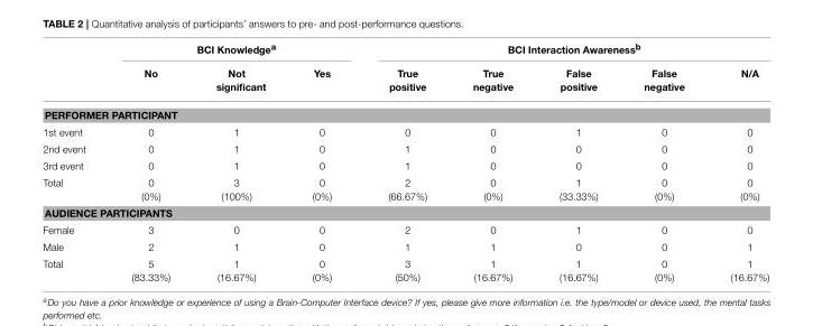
<table><thead><tr><td rowspan="2"></td><td colspan="3">BCI Knowledge<sup>a</sup></td><td colspan="5">BCI Interaction Awareness<sup>b</sup></td></tr><tr><td>No</td><td>Not significant</td><td>Yes</td><td>True positive</td><td>True negative</td><td>False positive</td><td>False negative</td><td>N/A</td></tr></thead><tbody><tr><td colspan="9">PERFORMER PARTICIPANT</td></tr><tr><td>1st event</td><td>0</td><td>1</td><td>0</td><td>0</td><td>0</td><td>1</td><td>0</td><td>0</td></tr><tr><td>2nd event</td><td>0</td><td>1</td><td>0</td><td>1</td><td>0</td><td>0</td><td>0</td><td>0</td></tr><tr><td>3rd event</td><td>0</td><td>1</td><td>0</td><td>1</td><td>0</td><td>0</td><td>0</td><td>0</td></tr><tr><td>Total</td><td>0 (0%)</td><td>3 (100%)</td><td>0 (0%)</td><td>2 (66.67%)</td><td>0 (0%)</td><td>1 (33.33%)</td><td>0 (0%)</td><td>0 (0%)</td></tr><tr><td colspan="9">AUDIENCE PARTICIPANTS</td></tr><tr><td>Female</td><td>3</td><td>0</td><td>0</td><td>2</td><td>0</td><td>1</td><td>0</td><td>0</td></tr><tr><td>Male</td><td>2</td><td>1</td><td>0</td><td>1</td><td>1</td><td>0</td><td>0</td><td>1</td></tr><tr><td>Total</td><td>5 (83.33%)</td><td>1 (16.67%)</td><td>0 (0%)</td><td>3 (50%)</td><td>1 (16.67%)</td><td>1 (16.67%)</td><td>0 (0%)</td><td>1 (16.67%)</td></tr></tbody></table>